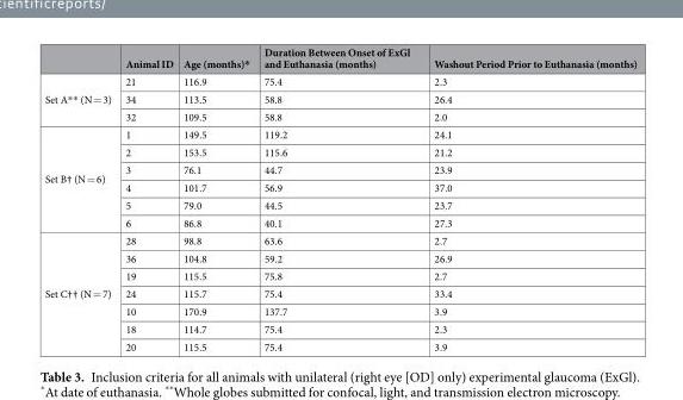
<table><thead><tr><td></td><td>Animal ID</td><td>Age (months)*</td><td>Duration Between Onset of ExGl and Euthanasia (months)</td><td>Washout Period Prior to Euthanasia (months)</td></tr></thead><tbody><tr><td rowspan="3">Set A** (N = 3)</td><td>21</td><td>116.9</td><td>75.4</td><td>2.3</td></tr><tr><td>34</td><td>113.5</td><td>58.8</td><td>26.4</td></tr><tr><td>32</td><td>109.5</td><td>58.8</td><td>2.0</td></tr><tr><td rowspan="6">Set B† (N = 6)</td><td>1</td><td>149.5</td><td>119.2</td><td>24.1</td></tr><tr><td>2</td><td>153.5</td><td>115.6</td><td>21.2</td></tr><tr><td>3</td><td>76.1</td><td>44.7</td><td>23.9</td></tr><tr><td>4</td><td>101.7</td><td>56.9</td><td>37.0</td></tr><tr><td>5</td><td>79.0</td><td>44.5</td><td>23.7</td></tr><tr><td>6</td><td>86.8</td><td>40.1</td><td>27.3</td></tr><tr><td rowspan="7">Set C†† (N = 7)</td><td>28</td><td>98.8</td><td>63.6</td><td>2.7</td></tr><tr><td>36</td><td>104.8</td><td>59.2</td><td>26.9</td></tr><tr><td>19</td><td>115.5</td><td>75.8</td><td>2.7</td></tr><tr><td>24</td><td>115.7</td><td>75.4</td><td>33.4</td></tr><tr><td>10</td><td>170.9</td><td>137.7</td><td>3.9</td></tr><tr><td>18</td><td>114.7</td><td>75.4</td><td>2.3</td></tr><tr><td>20</td><td>115.5</td><td>75.4</td><td>3.9</td></tr></tbody></table>